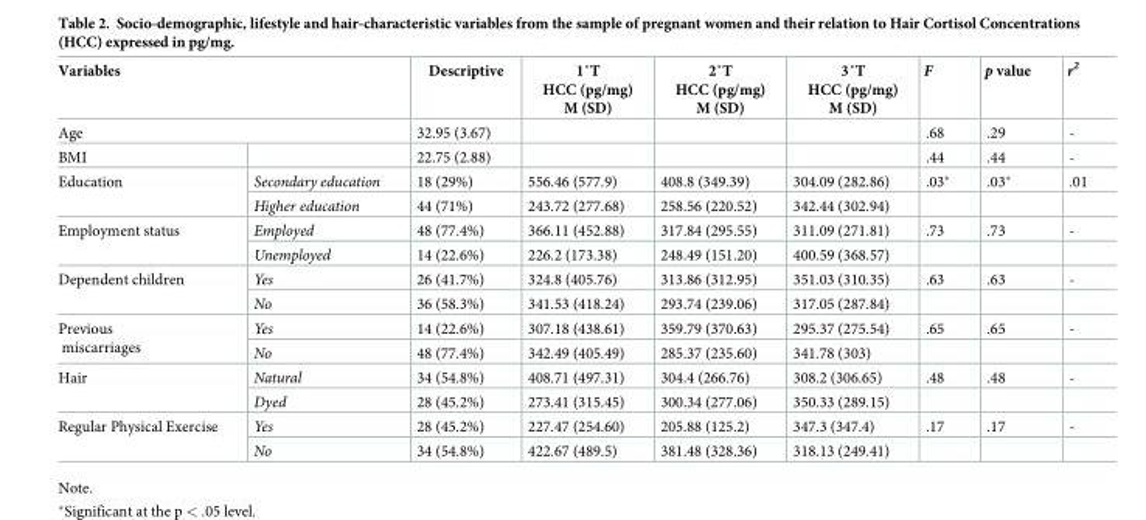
<table><thead><tr><td rowspan="2" colspan="2">Variables Age</td><td rowspan="3">Descriptive 32.95 (3.67) 22.75 (2.88)</td><td rowspan="3">1˚T HCC (pg/mg) M (SD)</td><td rowspan="3">2˚T HCC (pg/mg) M (SD)</td><td rowspan="3">3˚T HCC (pg/mg) M (SD)</td><td rowspan="3">F .68 .44</td><td rowspan="3">p value .29 .44</td><td rowspan="3">r<sup>2</sup> - -</td></tr><tr></tr><tr><td>BMI</td><td></td></tr></thead><tbody><tr><td rowspan="2">Education</td><td>Secondary education</td><td>18 (29%)</td><td>556.46 (577.9)</td><td>408.8 (349.39)</td><td>304.09 (282.86)</td><td>.03*</td><td>.03*</td><td>.01</td></tr><tr><td>Higher education</td><td>44 (71%)</td><td>243.72 (277.68)</td><td>258.56 (220.52)</td><td>342.44 (302.94)</td><td></td><td></td><td></td></tr><tr><td rowspan="2">Employment status</td><td>Employed</td><td>48 (77.4%)</td><td>366.11 (452.88)</td><td>317.84 (295.55)</td><td>311.09 (271.81)</td><td>.73</td><td>.73</td><td>-</td></tr><tr><td>Unemployed</td><td>14 (22.6%)</td><td>226.2 (173.38)</td><td>248.49 (151.20)</td><td>400.59 (368.57)</td><td></td><td></td><td></td></tr><tr><td rowspan="2">Dependent children</td><td>Yes</td><td>26 (41.7%)</td><td>324.8 (405.76)</td><td>313.86 (312.95)</td><td>351.03 (310.35)</td><td>.63</td><td>.63</td><td>-</td></tr><tr><td>No</td><td>36 (58.3%)</td><td>341.53 (418.24)</td><td>293.74 (239.06)</td><td>317.05 (287.84)</td><td></td><td></td><td></td></tr><tr><td rowspan="2">Previous miscarriages</td><td>Yes</td><td>14 (22.6%)</td><td>307.18 (438.61)</td><td>359.79 (370.63)</td><td>295.37 (275.54)</td><td>.65</td><td>.65</td><td>-</td></tr><tr><td>No</td><td>48 (77.4%)</td><td>342.49 (405.49)</td><td>285.37 (235.60)</td><td>341.78 (303)</td><td></td><td></td><td></td></tr><tr><td rowspan="2">Hair</td><td>Natural</td><td>34 (54.8%)</td><td>408.71 (497.31)</td><td>304.4 (266.76)</td><td>308.2 (306.65)</td><td>.48</td><td>.48</td><td>-</td></tr><tr><td>Dyed</td><td>28 (45.2%)</td><td>273.41 (315.45)</td><td>300.34 (277.06)</td><td>350.33 (289.15)</td><td></td><td></td><td></td></tr><tr><td rowspan="2">Regular Physical Exercise</td><td>Yes</td><td>28 (45.2%)</td><td>227.47 (254.60)</td><td>205.88 (125.2)</td><td>347.3 (347.4)</td><td>.17</td><td>.17</td><td>-</td></tr><tr><td>No</td><td>34 (54.8%)</td><td>422.67 (489.5)</td><td>381.48 (328.36)</td><td>318.13 (249.41)</td><td></td><td></td><td></td></tr></tbody></table>